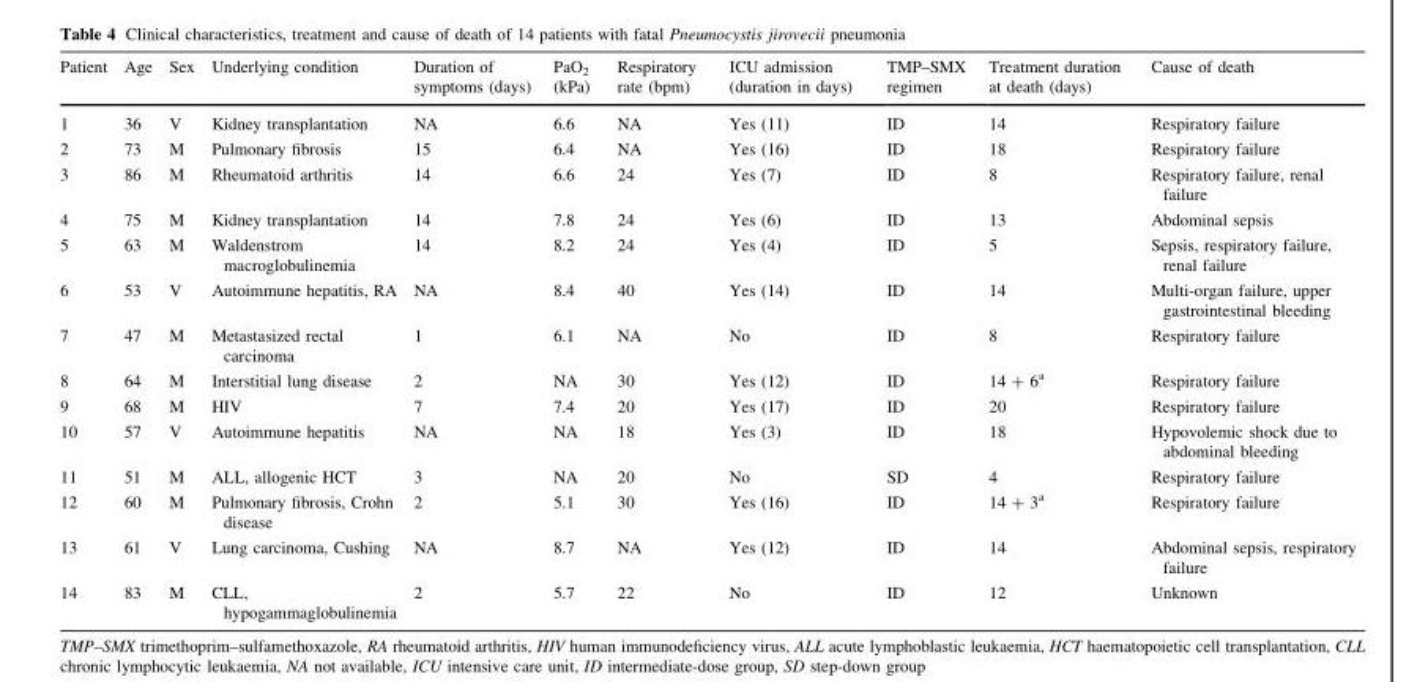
<table><thead><tr><td>Patient</td><td>Age</td><td>Sex</td><td>Underlying condition</td><td>Duration of symptoms (days)</td><td>PaO<sub>2</sub> (kPa)</td><td>Respiratory rate (bpm)</td><td>ICU admission (duration in days)</td><td>TMP–SMX regimen</td><td>Treatment duration at death (days)</td><td>Cause of death</td></tr></thead><tbody><tr><td>1</td><td>36</td><td>V</td><td>Kidney transplantation</td><td>NA</td><td>6.6</td><td>NA</td><td>Yes (11)</td><td>ID</td><td>14</td><td>Respiratory failure</td></tr><tr><td>2</td><td>73</td><td>M</td><td>Pulmonary fibrosis</td><td>15</td><td>6.4</td><td>NA</td><td>Yes (16)</td><td>ID</td><td>18</td><td>Respiratory failure</td></tr><tr><td>3</td><td>86</td><td>M</td><td>Rheumatoid arthritis</td><td>14</td><td>6.6</td><td>24</td><td>Yes (7)</td><td>ID</td><td>8</td><td>Respiratory failure, renal failure</td></tr><tr><td>4</td><td>75</td><td>M</td><td>Kidney transplantation</td><td>14</td><td>7.8</td><td>24</td><td>Yes (6)</td><td>ID</td><td>13</td><td>Abdominal sepsis</td></tr><tr><td>5</td><td>63</td><td>M</td><td>Waldenstrom macroglobulinemia</td><td>14</td><td>8.2</td><td>24</td><td>Yes (4)</td><td>ID</td><td>5</td><td>Sepsis, respiratory failure, renal failure</td></tr><tr><td>6</td><td>53</td><td>V</td><td>Autoimmune hepatitis, RA</td><td>NA</td><td>8.4</td><td>40</td><td>Yes (14)</td><td>ID</td><td>14</td><td>Multi-organ failure, upper gastrointestinal bleeding</td></tr><tr><td>7</td><td>47</td><td>M</td><td>Metastasized rectal carcinoma</td><td>1</td><td>6.1</td><td>NA</td><td>No</td><td>ID</td><td>8</td><td>Respiratory failure</td></tr><tr><td>8</td><td>64</td><td>M</td><td>Interstitial lung disease</td><td>2</td><td>NA</td><td>30</td><td>Yes (12)</td><td>ID</td><td>14 + 6<sup>a</sup></td><td>Respiratory failure</td></tr><tr><td>9</td><td>68</td><td>M</td><td>HIV</td><td>7</td><td>7.4</td><td>20</td><td>Yes (17)</td><td>ID</td><td>20</td><td>Respiratory failure</td></tr><tr><td>10</td><td>57</td><td>V</td><td>Autoimmune hepatitis</td><td>NA</td><td>NA</td><td>18</td><td>Yes (3)</td><td>ID</td><td>18</td><td>Hypovolemic shock due to abdominal bleeding</td></tr><tr><td>11</td><td>51</td><td>M</td><td>ALL, allogenic HCT</td><td>3</td><td>NA</td><td>20</td><td>No</td><td>SD</td><td>4</td><td>Respiratory failure</td></tr><tr><td>12</td><td>60</td><td>M</td><td>Pulmonary fibrosis, Crohn disease</td><td>2</td><td>5.1</td><td>30</td><td>Yes (16)</td><td>ID</td><td>14 + 3<sup>a</sup></td><td>Respiratory failure</td></tr><tr><td>13</td><td>61</td><td>V</td><td>Lung carcinoma, Cushing</td><td>NA</td><td>8.7</td><td>NA</td><td>Yes (12)</td><td>ID</td><td>14</td><td>Abdominal sepsis, respiratory failure</td></tr><tr><td>14</td><td>83</td><td>M</td><td>CLL, hypogammaglobulinemia</td><td>2</td><td>5.7</td><td>22</td><td>No</td><td>ID</td><td>12</td><td>Unknown</td></tr></tbody></table>